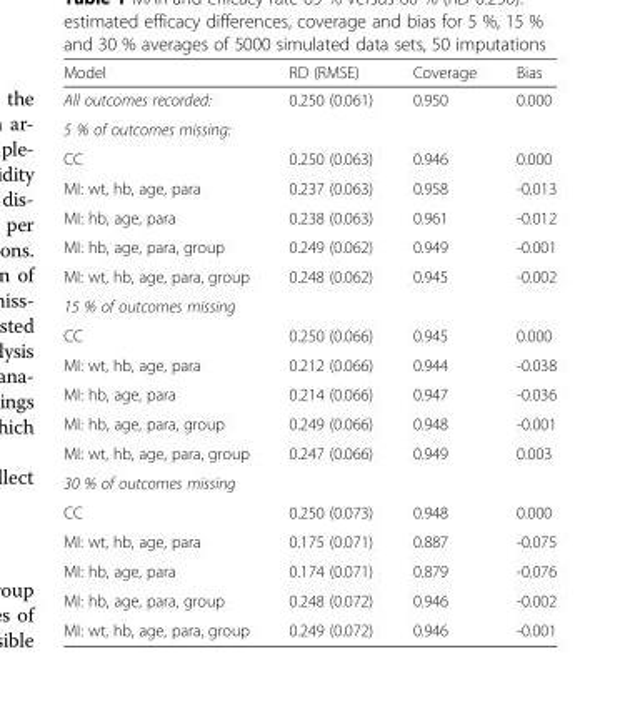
<table><thead><tr><td>Model</td><td>RD (RMSE)</td><td>Coverage</td><td>Bias</td></tr></thead><tbody><tr><td>All outcomes recorded:</td><td>0.250 (0.061)</td><td>0.950</td><td>0.000</td></tr><tr><td colspan="4">5 % of outcomes missing:</td></tr><tr><td>CC</td><td>0.250 (0.063)</td><td>0.946</td><td>0.000</td></tr><tr><td>MI: wt, hb, age, para</td><td>0.237 (0.063)</td><td>0.958</td><td>-0.013</td></tr><tr><td>MI: hb, age, para</td><td>0.238 (0.063)</td><td>0.961</td><td>-0.012</td></tr><tr><td>MI: hb, age, para, group</td><td>0.249 (0.062)</td><td>0.949</td><td>-0.001</td></tr><tr><td>MI: wt, hb, age, para, group</td><td>0.248 (0.062)</td><td>0.945</td><td>-0.002</td></tr><tr><td colspan="4">15 % of outcomes missing</td></tr><tr><td>CC</td><td>0.250 (0.066)</td><td>0.945</td><td>0.000</td></tr><tr><td>MI: wt, hb, age, para</td><td>0.212 (0.066)</td><td>0.944</td><td>-0.038</td></tr><tr><td>MI: hb, age, para</td><td>0.214 (0.066)</td><td>0.947</td><td>-0.036</td></tr><tr><td>MI: hb, age, para, group</td><td>0.249 (0.066)</td><td>0.948</td><td>-0.001</td></tr><tr><td>MI: wt, hb, age, para, group</td><td>0.247 (0.066)</td><td>0.949</td><td>0.003</td></tr><tr><td colspan="4">30 % of outcomes missing</td></tr><tr><td>CC</td><td>0.250 (0.073)</td><td>0.948</td><td>0.000</td></tr><tr><td>MI: wt, hb, age, para</td><td>0.175 (0.071)</td><td>0.887</td><td>-0.075</td></tr><tr><td>MI: hb, age, para</td><td>0.174 (0.071)</td><td>0.879</td><td>-0.076</td></tr><tr><td>MI: hb, age, para, group</td><td>0.248 (0.072)</td><td>0.946</td><td>-0.002</td></tr><tr><td>MI: wt, hb, age, para, group</td><td>0.249 (0.072)</td><td>0.946</td><td>-0.001</td></tr></tbody></table>